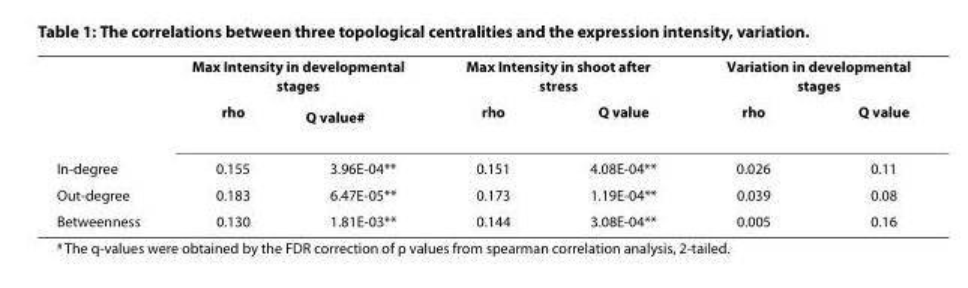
<table><thead><tr><td rowspan="2"></td><td colspan="2">Max Intensity in developmental stages</td><td colspan="2">Max Intensity in shoot after stress</td><td colspan="2">Variation in developmental stages</td></tr><tr><td>rho</td><td>Q value<sup>#</sup></td><td>rho</td><td>Q value</td><td>rho</td><td>Q value</td></tr></thead><tbody><tr><td>In-degree</td><td>0.155</td><td>3.96E-04**</td><td>0.151</td><td>4.08E-04**</td><td>0.026</td><td>0.11</td></tr><tr><td>Out-degree</td><td>0.183</td><td>6.47E-05**</td><td>0.173</td><td>1.19E-04**</td><td>0.039</td><td>0.08</td></tr><tr><td>Betweenness</td><td>0.130</td><td>1.81E-03**</td><td>0.144</td><td>3.08E-04**</td><td>0.005</td><td>0.16</td></tr></tbody></table>